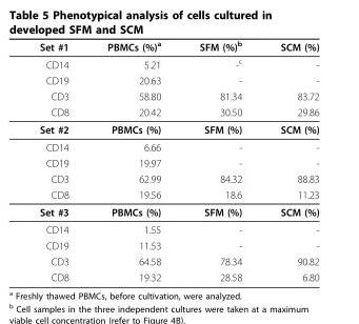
<table><thead><tr><td>Set #1</td><td>PBMCs (%)<sup>a</sup></td><td>SFM (%)<sup>b</sup></td><td>SCM (%)</td></tr></thead><tbody><tr><td>CD14</td><td>5.21</td><td>-<sup>c</sup></td><td>-</td></tr><tr><td>CD19</td><td>20.63</td><td>-</td><td>-</td></tr><tr><td>CD3</td><td>58.80</td><td>81.34</td><td>83.72</td></tr><tr><td>CD8</td><td>20.42</td><td>30.50</td><td>29.86</td></tr><tr><td>Set #2</td><td>PBMCs (%)</td><td>SFM (%)</td><td>SCM (%)</td></tr><tr><td>CD14</td><td>6.66</td><td>-</td><td>-</td></tr><tr><td>CD19</td><td>19.97</td><td>-</td><td>-</td></tr><tr><td>CD3</td><td>62.99</td><td>84.32</td><td>88.83</td></tr><tr><td>CD8</td><td>19.56</td><td>18.6</td><td>11.23</td></tr><tr><td>Set #3</td><td>PBMCs (%)</td><td>SFM (%)</td><td>SCM (%)</td></tr><tr><td>CD14</td><td>1.55</td><td>-</td><td>-</td></tr><tr><td>CD19</td><td>11.53</td><td>-</td><td>-</td></tr><tr><td>CD3</td><td>64.58</td><td>78.34</td><td>90.82</td></tr><tr><td>CD8</td><td>19.32</td><td>28.58</td><td>6.80</td></tr></tbody></table>